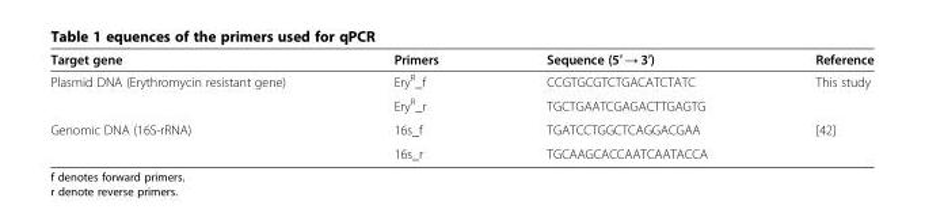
<table><thead><tr><td>Target gene</td><td>Primers</td><td>Sequence (5′ → 3′)</td><td>Reference</td></tr></thead><tbody><tr><td rowspan="2">Plasmid DNA (Erythromycin resistant gene)</td><td>Ery<sup>R</sup>_f</td><td>CCGTGCGTCTGACATCTATC</td><td rowspan="2">This study</td></tr><tr><td>Ery<sup>R</sup>_r</td><td>TGCTGAATCGAGACTTGAGTG</td></tr><tr><td rowspan="2">Genomic DNA (16S-rRNA)</td><td>16s_f</td><td>TGATCCTGGCTCAGGACGAA</td><td rowspan="2">[42]</td></tr><tr><td>16s_r</td><td>TGCAAGCACCAATCAATACCA</td></tr></tbody></table>